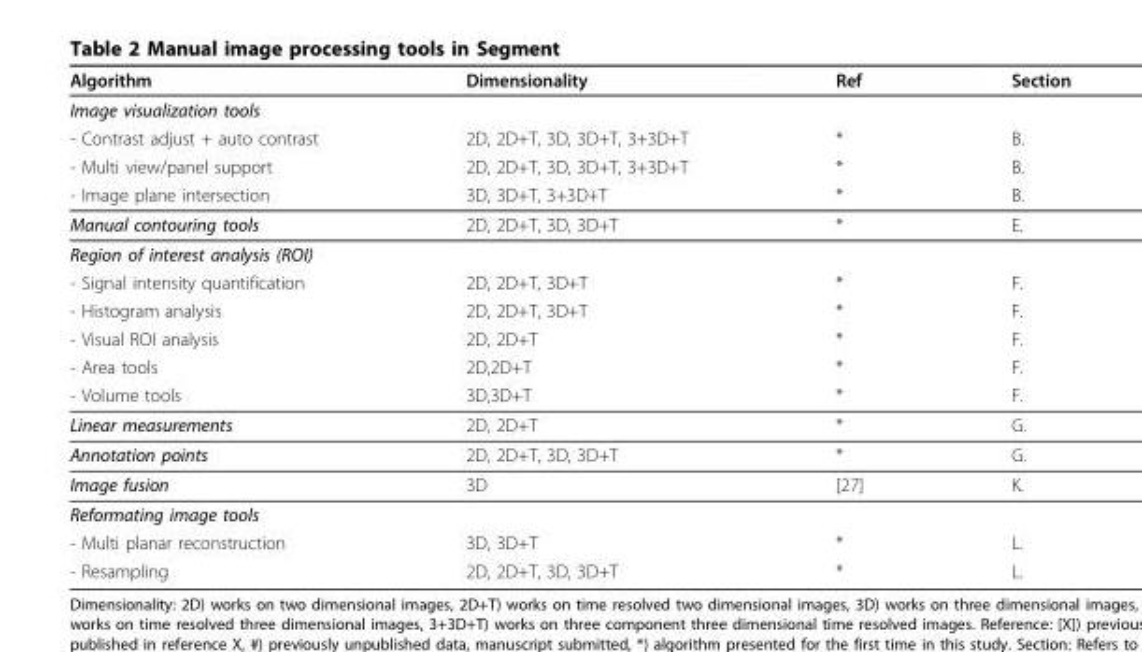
<table><thead><tr><td>Algorithm</td><td>Dimensionality</td><td>Ref</td><td>Section</td></tr></thead><tbody><tr><td colspan="4">Image visualization tools</td></tr><tr><td>- Contrast adjust + auto contrast</td><td>2D, 2D+T, 3D, 3D+T, 3+3D+T</td><td>*</td><td>B.</td></tr><tr><td>- Multi view/panel support</td><td>2D, 2D+T, 3D, 3D+T, 3+3D+T</td><td>*</td><td>B.</td></tr><tr><td>- Image plane intersection</td><td>3D, 3D+T, 3+3D+T</td><td>*</td><td>B.</td></tr><tr><td>Manual contouring tools</td><td>2D, 2D+T, 3D, 3D+T</td><td>*</td><td>E.</td></tr><tr><td colspan="4">Region of interest analysis (ROI)</td></tr><tr><td>- Signal intensity quantification</td><td>2D, 2D+T, 3D+T</td><td>*</td><td>F.</td></tr><tr><td>- Histogram analysis</td><td>2D, 2D+T, 3D+T</td><td>*</td><td>F.</td></tr><tr><td>- Visual ROI analysis</td><td>2D, 2D+T</td><td>*</td><td>F.</td></tr><tr><td>- Area tools</td><td>2D,2D+T</td><td>*</td><td>F.</td></tr><tr><td>- Volume tools</td><td>3D,3D+T</td><td>*</td><td>F.</td></tr><tr><td>Linear measurements</td><td>2D, 2D+T</td><td>*</td><td>G.</td></tr><tr><td>Annotation points</td><td>2D, 2D+T, 3D, 3D+T</td><td>*</td><td>G.</td></tr><tr><td>Image fusion</td><td>3D</td><td>[27]</td><td>K.</td></tr><tr><td colspan="4">Reformating image tools</td></tr><tr><td>- Multi planar reconstruction</td><td>3D, 3D+T</td><td>*</td><td>L.</td></tr><tr><td>- Resampling</td><td>2D, 2D+T, 3D, 3D+T</td><td>*</td><td>L.</td></tr></tbody></table>